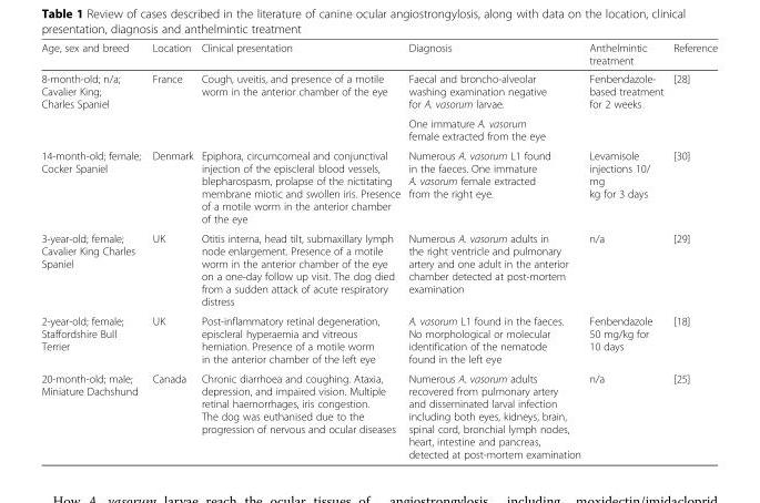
<table><thead><tr><td>Age, sex and breed</td><td>Location</td><td>Clinical presentation</td><td>Diagnosis</td><td>Anthelmintic treatment</td><td>Reference</td></tr></thead><tbody><tr><td rowspan="2">8-month-old; n/a; Cavalier King; Charles Spaniel</td><td rowspan="2">France</td><td rowspan="2">Cough, uveitis, and presence of a motile worm in the anterior chamber of the eye</td><td>Faecal and broncho-alveolar washing examination negative for A. vasorum larvae.</td><td rowspan="2">Fenbendazole- based treatment for 2 weeks</td><td rowspan="2">[28]</td></tr><tr><td>One immature A. vasorum female extracted from the eye</td></tr><tr><td>14-month-old; female; Cocker Spaniel</td><td>Denmark</td><td>Epiphora, circumcorneal and conjunctival injection of the episcleral blood vessels, blepharospasm, prolapse of the nictitating membrane miotic and swollen iris. Presence of a motile worm in the anterior chamber of the eye</td><td>Numerous A. vasorum L1 found in the faeces. One immature A. vasorum female extracted from the right eye.</td><td>Levamisole injections 10/ mg kg for 3 days</td><td>[30]</td></tr><tr><td>3-year-old; female; Cavalier King Charles Spaniel</td><td>UK</td><td>Otitis interna, head tilt, submaxillary lymph node enlargement. Presence of a motile worm in the anterior chamber of the eye on a one-day follow up visit. The dog died from a sudden attack of acute respiratory distress</td><td>Numerous A. vasorum adults in the right ventricle and pulmonary artery and one adult in the anterior chamber detected at post-mortem examination</td><td>n/a</td><td>[29]</td></tr><tr><td>2-year-old; female; Staffordshire Bull Terrier</td><td>UK</td><td>Post-inflammatory retinal degeneration, episcleral hyperaemia and vitreous herniation. Presence of a motile worm in the anterior chamber of the left eye</td><td>A. vasorum L1 found in the faeces. No morphological or molecular identification of the nematode found in the left eye</td><td>Fenbendazole 50 mg/kg for 10 days</td><td>[18]</td></tr><tr><td>20-month-old; male; Miniature Dachshund</td><td>Canada</td><td>Chronic diarrhoea and coughing. Ataxia, depression, and impaired vision. Multiple retinal haemorrhages, iris congestion. The dog was euthanised due to the progression of nervous and ocular diseases</td><td>Numerous A. vasorum adults recovered from pulmonary artery and disseminated larval infection including both eyes, kidneys, brain, spinal cord, bronchial lymph nodes, heart, intestine and pancreas, detected at post-mortem examination</td><td>n/a</td><td>[25]</td></tr></tbody></table>